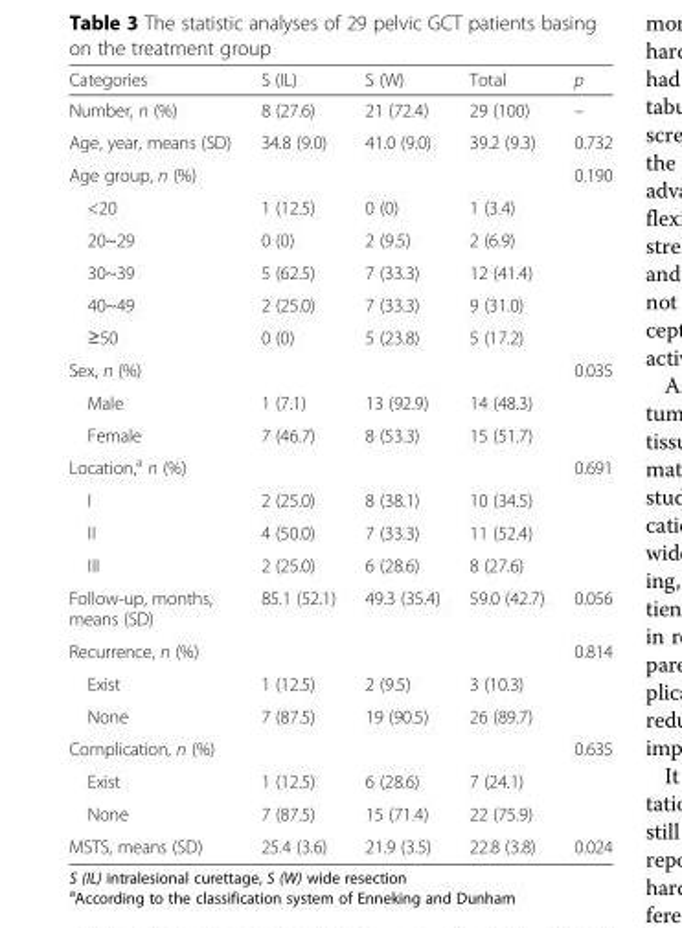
<table><thead><tr><td>Categories</td><td>S (IL)</td><td>S (W)</td><td>Total</td><td>p</td></tr></thead><tbody><tr><td>Number, n (%)</td><td>8 (27.6)</td><td>21 (72.4)</td><td>29 (100)</td><td>–</td></tr><tr><td>Age, year, means (SD)</td><td>34.8 (9.0)</td><td>41.0 (9.0)</td><td>39.2 (9.3)</td><td>0.732</td></tr><tr><td>Age group, n (%)</td><td></td><td></td><td></td><td>0.190</td></tr><tr><td>&lt;20</td><td>1 (12.5)</td><td>0 (0)</td><td>1 (3.4)</td><td></td></tr><tr><td>20~29</td><td>0 (0)</td><td>2 (9.5)</td><td>2 (6.9)</td><td></td></tr><tr><td>30~39</td><td>5 (62.5)</td><td>7 (33.3)</td><td>12 (41.4)</td><td></td></tr><tr><td>40~49</td><td>2 (25.0)</td><td>7 (33.3)</td><td>9 (31.0)</td><td></td></tr><tr><td>≥50</td><td>0 (0)</td><td>5 (23.8)</td><td>5 (17.2)</td><td></td></tr><tr><td>Sex, n (%)</td><td></td><td></td><td></td><td>0.035</td></tr><tr><td>Male</td><td>1 (7.1)</td><td>13 (92.9)</td><td>14 (48.3)</td><td></td></tr><tr><td>Female</td><td>7 (46.7)</td><td>8 (53.3)</td><td>15 (51.7)</td><td></td></tr><tr><td>Location,<sup>a</sup> n (%)</td><td></td><td></td><td></td><td>0.691</td></tr><tr><td>I</td><td>2 (25.0)</td><td>8 (38.1)</td><td>10 (34.5)</td><td></td></tr><tr><td>II</td><td>4 (50.0)</td><td>7 (33.3)</td><td>11 (52.4)</td><td></td></tr><tr><td>III</td><td>2 (25.0)</td><td>6 (28.6)</td><td>8 (27.6)</td><td></td></tr><tr><td>Follow-up, months, means (SD)</td><td>85.1 (52.1)</td><td>49.3 (35.4)</td><td>59.0 (42.7)</td><td>0.056</td></tr><tr><td>Recurrence, n (%)</td><td></td><td></td><td></td><td>0.814</td></tr><tr><td>Exist</td><td>1 (12.5)</td><td>2 (9.5)</td><td>3 (10.3)</td><td></td></tr><tr><td>None</td><td>7 (87.5)</td><td>19 (90.5)</td><td>26 (89.7)</td><td></td></tr><tr><td>Complication, n (%)</td><td></td><td></td><td></td><td>0.635</td></tr><tr><td>Exist</td><td>1 (12.5)</td><td>6 (28.6)</td><td>7 (24.1)</td><td></td></tr><tr><td>None</td><td>7 (87.5)</td><td>15 (71.4)</td><td>22 (75.9)</td><td></td></tr><tr><td>MSTS, means (SD)</td><td>25.4 (3.6)</td><td>21.9 (3.5)</td><td>22.8 (3.8)</td><td>0.024</td></tr></tbody></table>